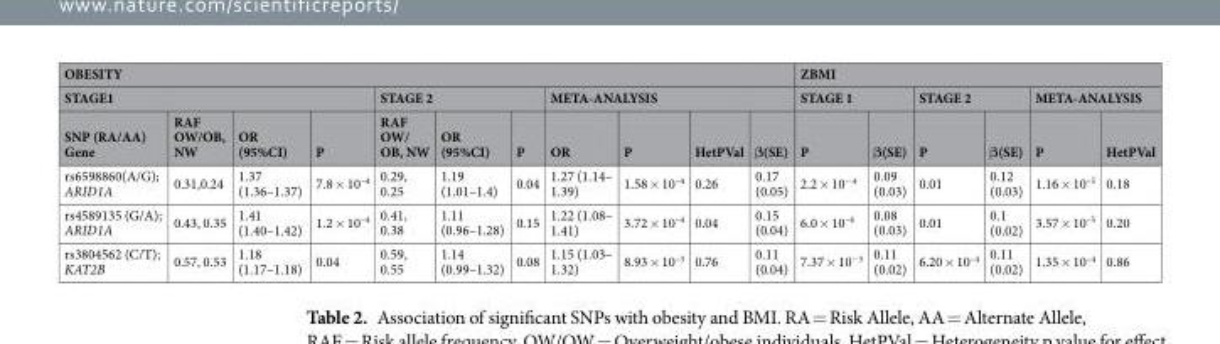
<table><thead><tr><td colspan="11">OBESITY</td><td colspan="6">ZBMI</td></tr><tr><td colspan="4">STAGE1</td><td colspan="3">STAGE 2</td><td colspan="4">META-ANALYSIS</td><td colspan="2">STAGE 1</td><td colspan="2">STAGE 2</td><td colspan="2">META-ANALYSIS</td></tr><tr><td>SNP (RA/AA) Gene</td><td>RAF OW/OB, NW</td><td>OR (95%CI)</td><td>P</td><td>RAF OW/ OB, NW</td><td>OR (95%CI)</td><td>P</td><td>OR</td><td>P</td><td>HetPVal</td><td>β(SE)</td><td>P</td><td>β(SE)</td><td>P</td><td>β(SE)</td><td>P</td><td>HetPVal</td></tr></thead><tbody><tr><td>rs6598860(A/G); ARID1A</td><td>0.31,0.24</td><td>1.37 (1.36–1.37)</td><td>7.8 × 10<sup>–4</sup></td><td>0.29, 0.25</td><td>1.19 (1.01–1.4)</td><td>0.04</td><td>1.27 (1.14– 1.39)</td><td>1.58 × 10<sup>–4</sup></td><td>0.26</td><td>0.17 (0.05)</td><td>2.2 × 10<sup>−4</sup></td><td>0.09 (0.03)</td><td>0.01</td><td>0.12 (0.03)</td><td>1.16 × 10<sup>–5</sup></td><td>0.18</td></tr><tr><td>rs4589135 (G/A); ARID1A</td><td>0.43, 0.35</td><td>1.41 (1.40–1.42)</td><td>1.2 × 10<sup>–4</sup></td><td>0.41, 0.38</td><td>1.11 (0.96–1.28)</td><td>0.15</td><td>1.22 (1.08– 1.41)</td><td>3.72 × 10<sup>–4</sup></td><td>0.04</td><td>0.15 (0.04)</td><td>6.0 × 10<sup>–4</sup></td><td>0.08 (0.03)</td><td>0.01</td><td>0.1 (0.02)</td><td>3.57 × 10<sup>–5</sup></td><td>0.20</td></tr><tr><td>rs3804562 (C/T); KAT2B</td><td>0.57, 0.53</td><td>1.18 (1.17–1.18)</td><td>0.04</td><td>0.59, 0.55</td><td>1.14 (0.99–1.32)</td><td>0.08</td><td>1.15 (1.03– 1.32)</td><td>8.93 × 10<sup>–3</sup></td><td>0.76</td><td>0.11 (0.04)</td><td>7.37 × 10<sup>−3</sup></td><td>0.11 (0.02)</td><td>6.20 × 10<sup>–4</sup></td><td>0.11 (0.02)</td><td>1.35 × 10<sup>–4</sup></td><td>0.86</td></tr></tbody></table>